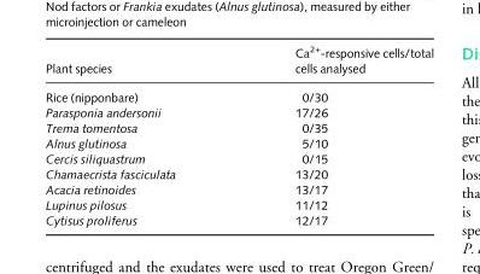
<table><thead><tr><td>Plant species</td><td>Ca<sup>2+</sup>-responsive cells/total cells analysed</td></tr></thead><tbody><tr><td>Rice (nipponbare)</td><td>0/30</td></tr><tr><td>Parasponia andersonii</td><td>17/26</td></tr><tr><td>Trema tomentosa</td><td>0/35</td></tr><tr><td>Alnus glutinosa</td><td>5/10</td></tr><tr><td>Cercis siliquastrum</td><td>0/15</td></tr><tr><td>Chamaecrista fasciculata</td><td>13/20</td></tr><tr><td>Acacia retinoides</td><td>13/17</td></tr><tr><td>Lupinus pilosus</td><td>11/12</td></tr><tr><td>Cytisus proliferus</td><td>12/17</td></tr></tbody></table>